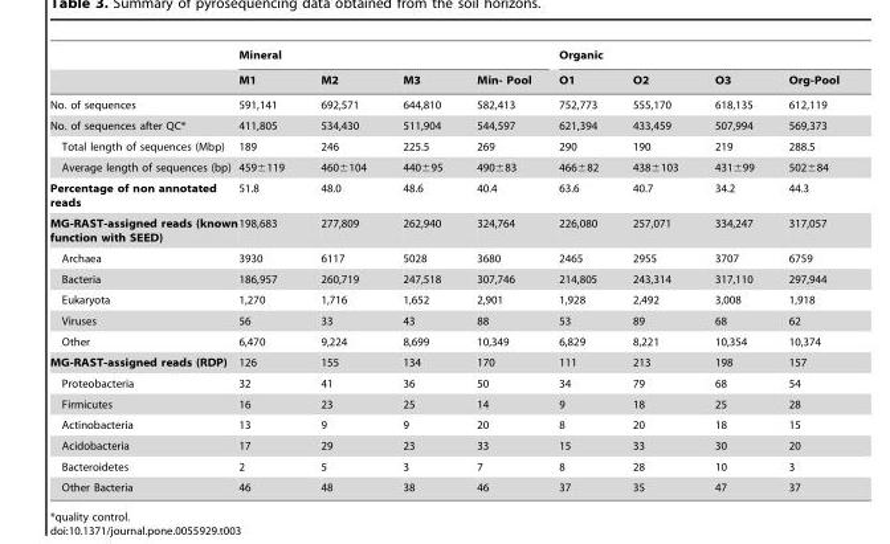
<table><thead><tr><td rowspan="2"></td><td colspan="4">Mineral</td><td colspan="4">Organic</td></tr><tr><td>M1</td><td>M2</td><td>M3</td><td>Min- Pool</td><td>O1</td><td>O2</td><td>O3</td><td>Org-Pool</td></tr></thead><tbody><tr><td>No. of sequences</td><td>591,141</td><td>692,571</td><td>644,810</td><td>582,413</td><td>752,773</td><td>555,170</td><td>618,135</td><td>612,119</td></tr><tr><td>No. of sequences after QC*</td><td>411,805</td><td>534,430</td><td>511,904</td><td>544,597</td><td>621,394</td><td>433,459</td><td>507,994</td><td>569,373</td></tr><tr><td>Total length of sequences (Mbp)</td><td>189</td><td>246</td><td>225.5</td><td>269</td><td>290</td><td>190</td><td>219</td><td>288.5</td></tr><tr><td>Average length of sequences (bp)</td><td>459±119</td><td>460±104</td><td>440±95</td><td>490±83</td><td>466±82</td><td>438±103</td><td>431±99</td><td>502±84</td></tr><tr><td>Percentage of non annotated reads</td><td>51.8</td><td>48.0</td><td>48.6</td><td>40.4</td><td>63.6</td><td>40.7</td><td>34.2</td><td>44.3</td></tr><tr><td>MG-RAST-assigned reads (known function with SEED)</td><td>198,683</td><td>277,809</td><td>262,940</td><td>324,764</td><td>226,080</td><td>257,071</td><td>334,247</td><td>317,057</td></tr><tr><td>Archaea</td><td>3930</td><td>6117</td><td>5028</td><td>3680</td><td>2465</td><td>2955</td><td>3707</td><td>6759</td></tr><tr><td>Bacteria</td><td>186,957</td><td>260,719</td><td>247,518</td><td>307,746</td><td>214,805</td><td>243,314</td><td>317,110</td><td>297,944</td></tr><tr><td>Eukaryota</td><td>1,270</td><td>1,716</td><td>1,652</td><td>2,901</td><td>1,928</td><td>2,492</td><td>3,008</td><td>1,918</td></tr><tr><td>Viruses</td><td>56</td><td>33</td><td>43</td><td>88</td><td>53</td><td>89</td><td>68</td><td>62</td></tr><tr><td>Other</td><td>6,470</td><td>9,224</td><td>8,699</td><td>10,349</td><td>6,829</td><td>8,221</td><td>10,354</td><td>10,374</td></tr><tr><td>MG-RAST-assigned reads (RDP)</td><td>126</td><td>155</td><td>134</td><td>170</td><td>111</td><td>213</td><td>198</td><td>157</td></tr><tr><td>Proteobacteria</td><td>32</td><td>41</td><td>36</td><td>50</td><td>34</td><td>79</td><td>68</td><td>54</td></tr><tr><td>Firmicutes</td><td>16</td><td>23</td><td>25</td><td>14</td><td>9</td><td>18</td><td>25</td><td>28</td></tr><tr><td>Actinobacteria</td><td>13</td><td>9</td><td>9</td><td>20</td><td>8</td><td>20</td><td>18</td><td>15</td></tr><tr><td>Acidobacteria</td><td>17</td><td>29</td><td>23</td><td>33</td><td>15</td><td>33</td><td>30</td><td>20</td></tr><tr><td>Bacteroidetes</td><td>2</td><td>5</td><td>3</td><td>7</td><td>8</td><td>28</td><td>10</td><td>3</td></tr><tr><td>Other Bacteria</td><td>46</td><td>48</td><td>38</td><td>46</td><td>37</td><td>35</td><td>47</td><td>37</td></tr></tbody></table>